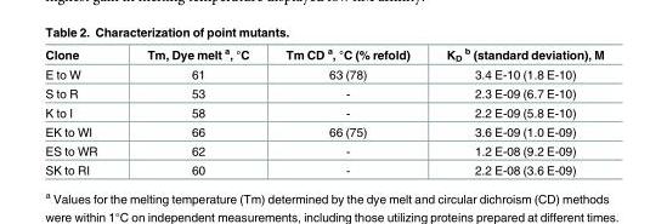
<table><thead><tr><td>Clone</td><td>Tm, Dye melt <sup>a</sup>, °C</td><td>Tm CD <sup>a</sup>, °C (% refold)</td><td>K<sub>D</sub> <sup>b</sup> (standard deviation), M</td></tr></thead><tbody><tr><td>E to W</td><td>61</td><td>63 (78)</td><td>3.4 E-10 (1.8 E-10)</td></tr><tr><td>S to R</td><td>53</td><td>-</td><td>2.3 E-09 (6.7 E-10)</td></tr><tr><td>K to I</td><td>58</td><td>-</td><td>2.2 E-09 (5.8 E-10)</td></tr><tr><td>EK to WI</td><td>66</td><td>66 (75)</td><td>3.6 E-09 (1.0 E-09)</td></tr><tr><td>ES to WR</td><td>62</td><td>-</td><td>1.2 E-08 (9.2 E-09)</td></tr><tr><td>SK to RI</td><td>60</td><td>-</td><td>2.2 E-08 (3.6 E-09)</td></tr></tbody></table>